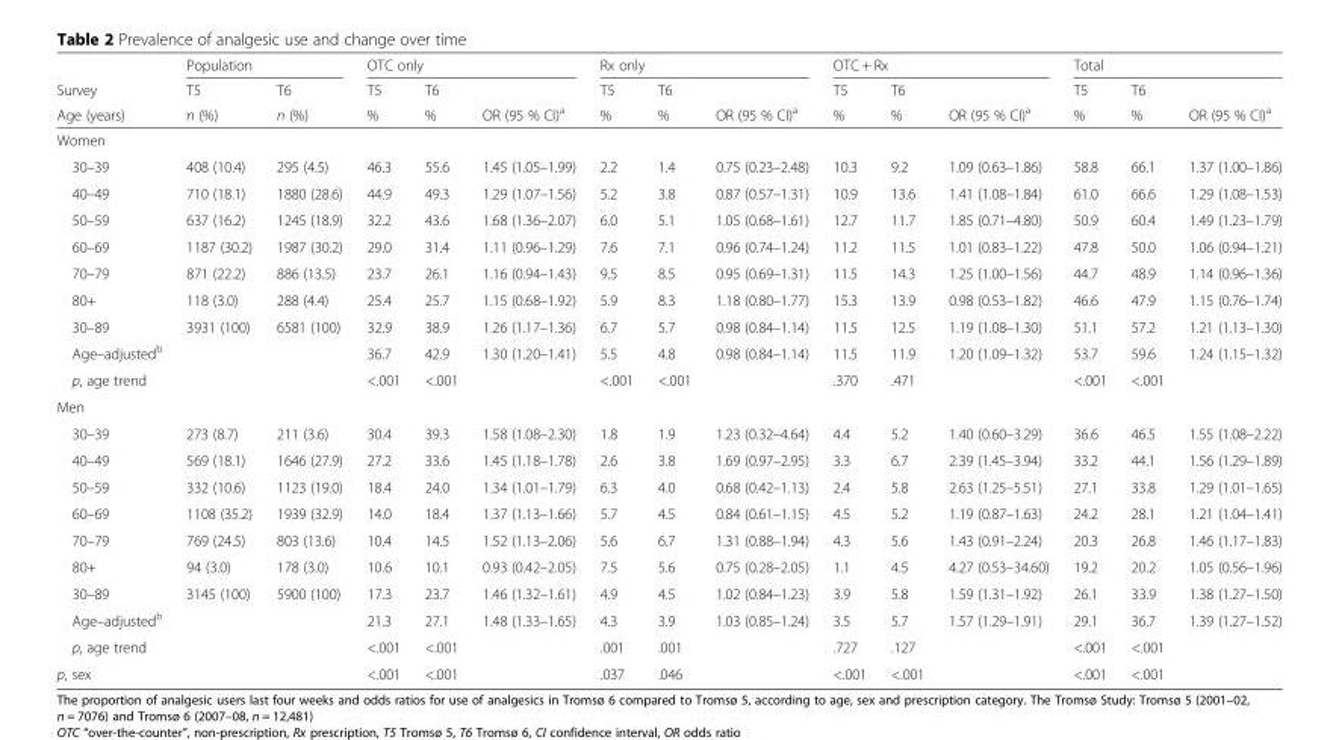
<table><thead><tr><td rowspan="3">Survey Age (years)</td><td colspan="2">Population</td><td colspan="3">OTC only</td><td colspan="3">Rx only</td><td colspan="3">OTC + Rx</td><td colspan="3">Total</td></tr><tr><td rowspan="2">T5 n (%)</td><td rowspan="2">T6 n (%)</td><td rowspan="2">T5 %</td><td rowspan="2">T6 %</td><td rowspan="2">OR (95 % CI)<sup>a</sup></td><td rowspan="2">T5 %</td><td rowspan="2">T6 %</td><td rowspan="2">OR (95 % CI)<sup>a</sup></td><td rowspan="2">T5 %</td><td rowspan="2">T6 %</td><td rowspan="2">OR (95 % CI)<sup>a</sup></td><td rowspan="2">T5 %</td><td rowspan="2">T6 %</td><td rowspan="2">OR (95 % CI)<sup>a</sup></td></tr><tr></tr></thead><tbody><tr><td colspan="15">Women</td></tr><tr><td>30–39</td><td>408 (10.4)</td><td>295 (4.5)</td><td>46.3</td><td>55.6</td><td>1.45 (1.05–1.99)</td><td>2.2</td><td>1.4</td><td>0.75 (0.23–2.48)</td><td>10.3</td><td>9.2</td><td>1.09 (0.63–1.86)</td><td>58.8</td><td>66.1</td><td>1.37 (1.00–1.86)</td></tr><tr><td>40–49</td><td>710 (18.1)</td><td>1880 (28.6)</td><td>44.9</td><td>49.3</td><td>1.29 (1.07–1.56)</td><td>5.2</td><td>3.8</td><td>0.87 (0.57–1.31)</td><td>10.9</td><td>13.6</td><td>1.41 (1.08–1.84)</td><td>61.0</td><td>66.6</td><td>1.29 (1.08–1.53)</td></tr><tr><td>50–59</td><td>637 (16.2)</td><td>1245 (18.9)</td><td>32.2</td><td>43.6</td><td>1.68 (1.36–2.07)</td><td>6.0</td><td>5.1</td><td>1.05 (0.68–1.61)</td><td>12.7</td><td>11.7</td><td>1.85 (0.71–4.80)</td><td>50.9</td><td>60.4</td><td>1.49 (1.23–1.79)</td></tr><tr><td>60–69</td><td>1187 (30.2)</td><td>1987 (30.2)</td><td>29.0</td><td>31.4</td><td>1.11 (0.96–1.29)</td><td>7.6</td><td>7.1</td><td>0.96 (0.74–1.24)</td><td>11.2</td><td>11.5</td><td>1.01 (0.83–1.22)</td><td>47.8</td><td>50.0</td><td>1.06 (0.94–1.21)</td></tr><tr><td>70–79</td><td>871 (22.2)</td><td>886 (13.5)</td><td>23.7</td><td>26.1</td><td>1.16 (0.94–1.43)</td><td>9.5</td><td>8.5</td><td>0.95 (0.69–1.31)</td><td>11.5</td><td>14.3</td><td>1.25 (1.00–1.56)</td><td>44.7</td><td>48.9</td><td>1.14 (0.96–1.36)</td></tr><tr><td>80+</td><td>118 (3.0)</td><td>288 (4.4)</td><td>25.4</td><td>25.7</td><td>1.15 (0.68–1.92)</td><td>5.9</td><td>8.3</td><td>1.18 (0.80–1.77)</td><td>15.3</td><td>13.9</td><td>0.98 (0.53–1.82)</td><td>46.6</td><td>47.9</td><td>1.15 (0.76–1.74)</td></tr><tr><td>30–89</td><td>3931 (100)</td><td>6581 (100)</td><td>32.9</td><td>38.9</td><td>1.26 (1.17–1.36)</td><td>6.7</td><td>5.7</td><td>0.98 (0.84–1.14)</td><td>11.5</td><td>12.5</td><td>1.19 (1.08–1.30)</td><td>51.1</td><td>57.2</td><td>1.21 (1.13–1.30)</td></tr><tr><td>Age–adjusted<sup>b</sup></td><td></td><td></td><td>36.7</td><td>42.9</td><td>1.30 (1.20–1.41)</td><td>5.5</td><td>4.8</td><td>0.98 (0.84–1.14)</td><td>11.5</td><td>11.9</td><td>1.20 (1.09–1.32)</td><td>53.7</td><td>59.6</td><td>1.24 (1.15–1.32)</td></tr><tr><td>p, age trend</td><td></td><td></td><td>&lt;.001</td><td>&lt;.001</td><td></td><td>&lt;.001</td><td>&lt;.001</td><td></td><td>.370</td><td>.471</td><td></td><td>&lt;.001</td><td>&lt;.001</td><td></td></tr><tr><td colspan="15">Men</td></tr><tr><td>30–39</td><td>273 (8.7)</td><td>211 (3.6)</td><td>30.4</td><td>39.3</td><td>1.58 (1.08–2.30)</td><td>1.8</td><td>1.9</td><td>1.23 (0.32–4.64)</td><td>4.4</td><td>5.2</td><td>1.40 (0.60–3.29)</td><td>36.6</td><td>46.5</td><td>1.55 (1.08–2.22)</td></tr><tr><td>40–49</td><td>569 (18.1)</td><td>1646 (27.9)</td><td>27.2</td><td>33.6</td><td>1.45 (1.18–1.78)</td><td>2.6</td><td>3.8</td><td>1.69 (0.97–2.95)</td><td>3.3</td><td>6.7</td><td>2.39 (1.45–3.94)</td><td>33.2</td><td>44.1</td><td>1.56 (1.29–1.89)</td></tr><tr><td>50–59</td><td>332 (10.6)</td><td>1123 (19.0)</td><td>18.4</td><td>24.0</td><td>1.34 (1.01–1.79)</td><td>6.3</td><td>4.0</td><td>0.68 (0.42–1.13)</td><td>2.4</td><td>5.8</td><td>2.63 (1.25–5.51)</td><td>27.1</td><td>33.8</td><td>1.29 (1.01–1.65)</td></tr><tr><td>60–69</td><td>1108 (35.2)</td><td>1939 (32.9)</td><td>14.0</td><td>18.4</td><td>1.37 (1.13–1.66)</td><td>5.7</td><td>4.5</td><td>0.84 (0.61–1.15)</td><td>4.5</td><td>5.2</td><td>1.19 (0.87–1.63)</td><td>24.2</td><td>28.1</td><td>1.21 (1.04–1.41)</td></tr><tr><td>70–79</td><td>769 (24.5)</td><td>803 (13.6)</td><td>10.4</td><td>14.5</td><td>1.52 (1.13–2.06)</td><td>5.6</td><td>6.7</td><td>1.31 (0.88–1.94)</td><td>4.3</td><td>5.6</td><td>1.43 (0.91–2.24)</td><td>20.3</td><td>26.8</td><td>1.46 (1.17–1.83)</td></tr><tr><td>80+</td><td>94 (3.0)</td><td>178 (3.0)</td><td>10.6</td><td>10.1</td><td>0.93 (0.42–2.05)</td><td>7.5</td><td>5.6</td><td>0.75 (0.28–2.05)</td><td>1.1</td><td>4.5</td><td>4.27 (0.53–34.60)</td><td>19.2</td><td>20.2</td><td>1.05 (0.56–1.96)</td></tr><tr><td>30–89</td><td>3145 (100)</td><td>5900 (100)</td><td>17.3</td><td>23.7</td><td>1.46 (1.32–1.61)</td><td>4.9</td><td>4.5</td><td>1.02 (0.84–1.23)</td><td>3.9</td><td>5.8</td><td>1.59 (1.31–1.92)</td><td>26.1</td><td>33.9</td><td>1.38 (1.27–1.50)</td></tr><tr><td>Age–adjusted<sup>b</sup></td><td></td><td></td><td>21.3</td><td>27.1</td><td>1.48 (1.33–1.65)</td><td>4.3</td><td>3.9</td><td>1.03 (0.85–1.24)</td><td>3.5</td><td>5.7</td><td>1.57 (1.29–1.91)</td><td>29.1</td><td>36.7</td><td>1.39 (1.27–1.52)</td></tr><tr><td>p, age trend</td><td></td><td></td><td>&lt;.001</td><td>&lt;.001</td><td></td><td>.001</td><td>.001</td><td></td><td>.727</td><td>.127</td><td></td><td>&lt;.001</td><td>&lt;.001</td><td></td></tr><tr><td>p, sex</td><td></td><td></td><td>&lt;.001</td><td>&lt;.001</td><td></td><td>.037</td><td>.046</td><td></td><td>&lt;.001</td><td>&lt;.001</td><td></td><td>&lt;.001</td><td>&lt;.001</td><td></td></tr></tbody></table>